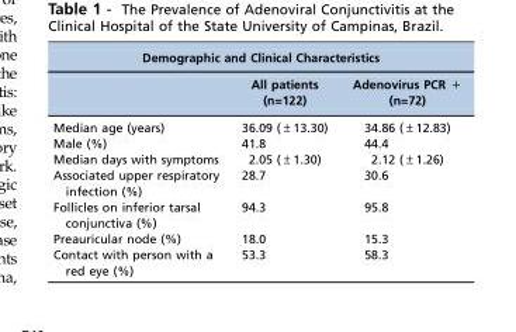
<table><thead><tr><td colspan="3">Demographic and Clinical Characteristics</td></tr><tr><td></td><td>All patients (n=122)</td><td>Adenovirus PCR + (n=72)</td></tr></thead><tbody><tr><td>Median age (years)</td><td>36.09 (±13.30)</td><td>34.86 (±12.83)</td></tr><tr><td>Male (%)</td><td>41.8</td><td>44.4</td></tr><tr><td>Median days with symptoms</td><td>2.05 (±1.30)</td><td>2.12 (±1.26)</td></tr><tr><td>Associated upper respiratory infection (%)</td><td>28.7</td><td>30.6</td></tr><tr><td>Follicles on inferior tarsal conjunctiva (%)</td><td>94.3</td><td>95.8</td></tr><tr><td>Preauricular node (%)</td><td>18.0</td><td>15.3</td></tr><tr><td>Contact with person with a red eye (%)</td><td>53.3</td><td>58.3</td></tr></tbody></table>